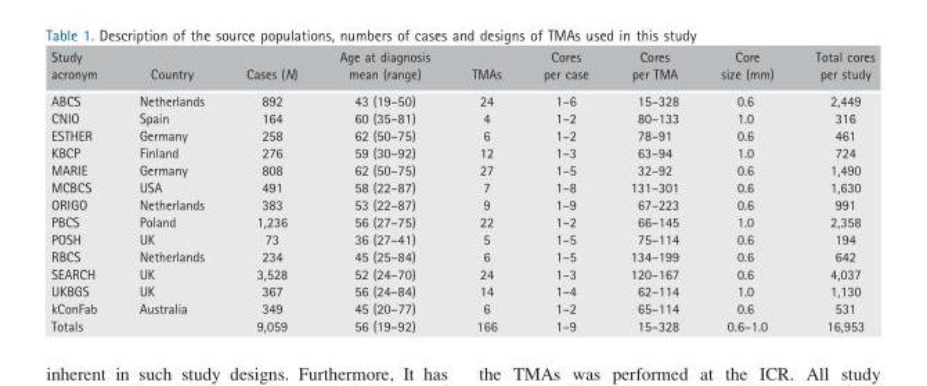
<table><thead><tr><td>Study acronym</td><td>Country</td><td>Cases (N)</td><td>Age at diagnosis mean (range)</td><td>TMAs</td><td>Cores per case</td><td>Cores per TMA</td><td>Core size (mm)</td><td>Total cores per study</td></tr></thead><tbody><tr><td>ABCS</td><td>Netherlands</td><td>892</td><td>43 (19–50)</td><td>24</td><td>1–6</td><td>15–328</td><td>0.6</td><td>2,449</td></tr><tr><td>CNIO</td><td>Spain</td><td>164</td><td>60 (35–81)</td><td>4</td><td>1–2</td><td>80–133</td><td>1.0</td><td>316</td></tr><tr><td>ESTHER</td><td>Germany</td><td>258</td><td>62 (50–75)</td><td>6</td><td>1–2</td><td>78–91</td><td>0.6</td><td>461</td></tr><tr><td>KBCP</td><td>Finland</td><td>276</td><td>59 (30–92)</td><td>12</td><td>1–3</td><td>63–94</td><td>1.0</td><td>724</td></tr><tr><td>MARIE</td><td>Germany</td><td>808</td><td>62 (50–75)</td><td>27</td><td>1–5</td><td>32–92</td><td>0.6</td><td>1,490</td></tr><tr><td>MCBCS</td><td>USA</td><td>491</td><td>58 (22–87)</td><td>7</td><td>1–8</td><td>131–301</td><td>0.6</td><td>1,630</td></tr><tr><td>ORIGO</td><td>Netherlands</td><td>383</td><td>53 (22–87)</td><td>9</td><td>1–9</td><td>67–223</td><td>0.6</td><td>991</td></tr><tr><td>PBCS</td><td>Poland</td><td>1,236</td><td>56 (27–75)</td><td>22</td><td>1–2</td><td>66–145</td><td>1.0</td><td>2,358</td></tr><tr><td>POSH</td><td>UK</td><td>73</td><td>36 (27–41)</td><td>5</td><td>1–5</td><td>75–114</td><td>0.6</td><td>194</td></tr><tr><td>RBCS</td><td>Netherlands</td><td>234</td><td>45 (25–84)</td><td>6</td><td>1–5</td><td>134–199</td><td>0.6</td><td>642</td></tr><tr><td>SEARCH</td><td>UK</td><td>3,528</td><td>52 (24–70)</td><td>24</td><td>1–3</td><td>120–167</td><td>0.6</td><td>4,037</td></tr><tr><td>UKBGS</td><td>UK</td><td>367</td><td>56 (24–84)</td><td>14</td><td>1–4</td><td>62–114</td><td>1.0</td><td>1,130</td></tr><tr><td>kConFab</td><td>Australia</td><td>349</td><td>45 (20–77)</td><td>6</td><td>1–2</td><td>65–114</td><td>0.6</td><td>531</td></tr><tr><td>Totals</td><td></td><td>9,059</td><td>56 (19–92)</td><td>166</td><td>1–9</td><td>15–328</td><td>0.6–1.0</td><td>16,953</td></tr></tbody></table>